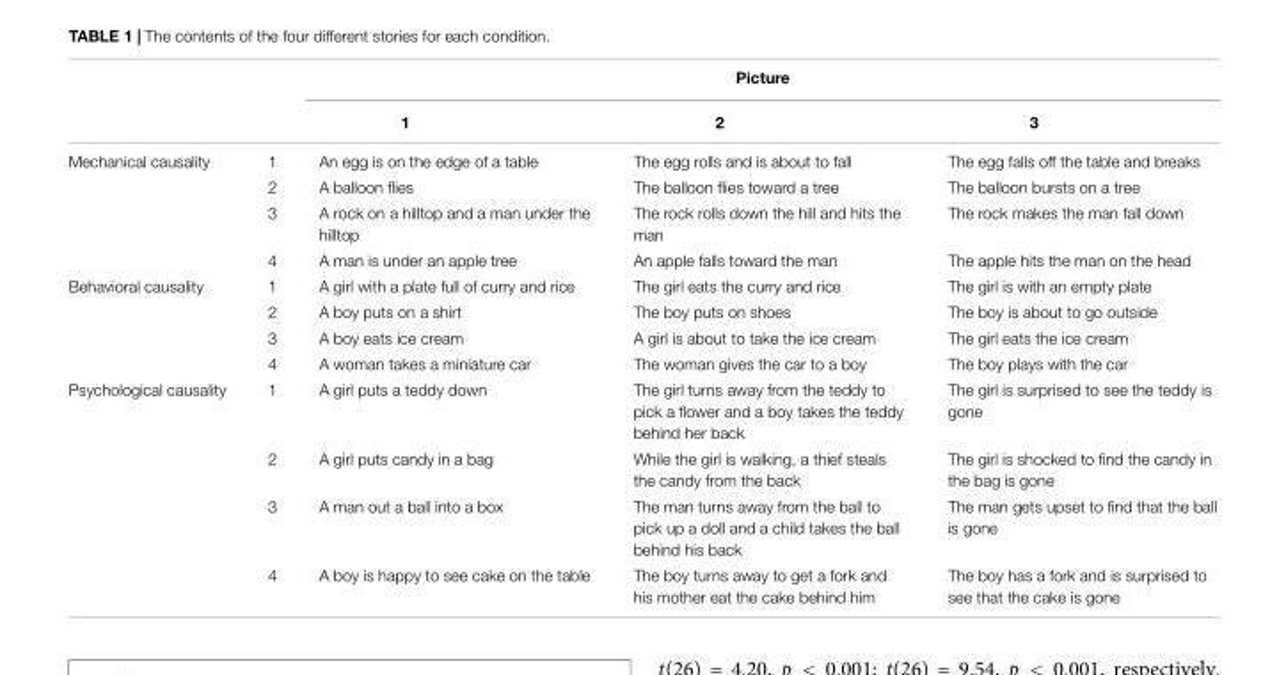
<table><thead><tr><td rowspan="2"></td><td rowspan="2"></td><td colspan="3">Picture</td></tr><tr><td>1</td><td>2</td><td>3</td></tr></thead><tbody><tr><td rowspan="4">Mechanical causality</td><td>1</td><td>An egg is on the edge of a table</td><td>The egg rolls and is about to fall</td><td>The egg falls off the table and breaks</td></tr><tr><td>2</td><td>A balloon flies</td><td>The balloon flies toward a tree</td><td>The balloon bursts on a tree</td></tr><tr><td>3</td><td>A rock on a hilltop and a man under the hilltop</td><td>The rock rolls down the hill and hits the man</td><td>The rock makes the man fall down</td></tr><tr><td>4</td><td>A man is under an apple tree</td><td>An apple falls toward the man</td><td>The apple hits the man on the head</td></tr><tr><td rowspan="4">Behavioral causality</td><td>1</td><td>A girl with a plate full of curry and rice</td><td>The girl eats the curry and rice</td><td>The girl is with an empty plate</td></tr><tr><td>2</td><td>A boy puts on a shirt</td><td>The boy puts on shoes</td><td>The boy is about to go outside</td></tr><tr><td>3</td><td>A boy eats ice cream</td><td>A girl is about to take the ice cream</td><td>The girl eats the ice cream</td></tr><tr><td>4</td><td>A woman takes a miniature car</td><td>The woman gives the car to a boy</td><td>The boy plays with the car</td></tr><tr><td rowspan="4">Psychological causality</td><td>1</td><td>A girl puts a teddy down</td><td>The girl turns away from the teddy to pick a flower and a boy takes the teddy behind her back</td><td>The girl is surprised to see the teddy is gone</td></tr><tr><td>2</td><td>A girl puts candy in a bag</td><td>While the girl is walking, a thief steals the candy from the back</td><td>The girl is shocked to find the candy in the bag is gone</td></tr><tr><td>3</td><td>A man out a ball into a box</td><td>The man turns away from the ball to pick up a doll and a child takes the ball behind his back</td><td>The man gets upset to find that the ball is gone</td></tr><tr><td>4</td><td>A boy is happy to see cake on the table</td><td>The boy turns away to get a fork and his mother eat the cake behind him</td><td>The boy has a fork and is surprised to see that the cake is gone</td></tr></tbody></table>